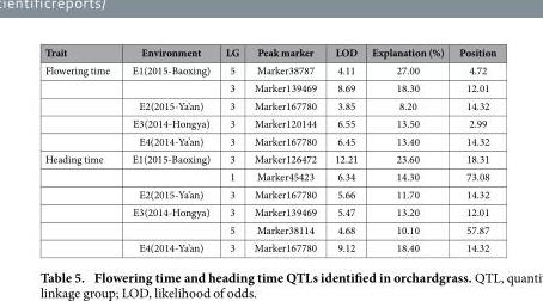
<table><thead><tr><td>Trait</td><td>Environment</td><td>LG</td><td>Peak marker</td><td>LOD</td><td>Explanation (%)</td><td>Position</td></tr></thead><tbody><tr><td rowspan="5">Flowering time</td><td>E1(2015-Baoxing)</td><td>5</td><td>Marker38787</td><td>4.11</td><td>27.00</td><td>4.72</td></tr><tr><td></td><td>3</td><td>Marker139469</td><td>8.69</td><td>18.30</td><td>12.01</td></tr><tr><td>E2(2015-Ya’an)</td><td>3</td><td>Marker167780</td><td>3.85</td><td>8.20</td><td>14.32</td></tr><tr><td>E3(2014-Hongya)</td><td>3</td><td>Marker120144</td><td>6.55</td><td>13.50</td><td>2.99</td></tr><tr><td>E4(2014-Ya’an)</td><td>3</td><td>Marker167780</td><td>6.45</td><td>13.40</td><td>14.32</td></tr><tr><td rowspan="6">Heading time</td><td>E1(2015-Baoxing)</td><td>3</td><td>Marker126472</td><td>12.21</td><td>23.60</td><td>18.31</td></tr><tr><td></td><td>1</td><td>Marker45423</td><td>6.34</td><td>14.30</td><td>73.08</td></tr><tr><td>E2(2015-Ya’an)</td><td>3</td><td>Marker167780</td><td>5.66</td><td>11.70</td><td>14.32</td></tr><tr><td>E3(2014-Hongya)</td><td>3</td><td>Marker139469</td><td>5.47</td><td>13.20</td><td>12.01</td></tr><tr><td></td><td>5</td><td>Marker38114</td><td>4.68</td><td>10.10</td><td>57.87</td></tr><tr><td>E4(2014-Ya’an)</td><td>3</td><td>Marker167780</td><td>9.12</td><td>18.40</td><td>14.32</td></tr></tbody></table>